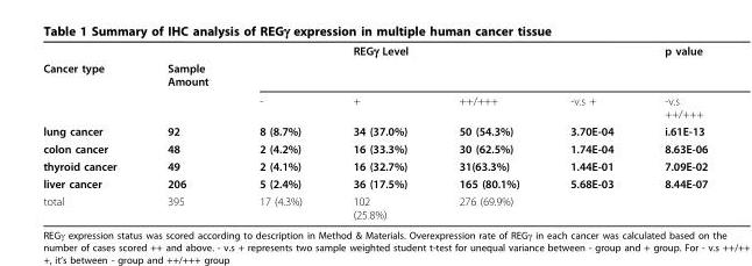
<table><thead><tr><td></td><td></td><td></td><td>REGγ Level</td><td></td><td></td><td>p value</td></tr></thead><tbody><tr><td rowspan="2">Cancer type</td><td>Sample Amount</td><td></td><td></td><td></td><td></td><td></td></tr><tr><td></td><td>-</td><td>+</td><td>++/+++</td><td>-v.s +</td><td>-v.s ++/+++</td></tr><tr><td>lung cancer</td><td>92</td><td>8 (8.7%)</td><td>34 (37.0%)</td><td>50 (54.3%)</td><td>3.70E-04</td><td>i.61E-13</td></tr><tr><td>colon cancer</td><td>48</td><td>2 (4.2%)</td><td>16 (33.3%)</td><td>30 (62.5%)</td><td>1.74E-04</td><td>8.63E-06</td></tr><tr><td>thyroid cancer</td><td>49</td><td>2 (4.1%)</td><td>16 (32.7%)</td><td>31(63.3%)</td><td>1.44E-01</td><td>7.09E-02</td></tr><tr><td>liver cancer</td><td>206</td><td>5 (2.4%)</td><td>36 (17.5%)</td><td>165 (80.1%)</td><td>5.68E-03</td><td>8.44E-07</td></tr><tr><td>total</td><td>395</td><td>17 (4.3%)</td><td>102 (25.8%)</td><td>276 (69.9%)</td><td></td><td></td></tr></tbody></table>